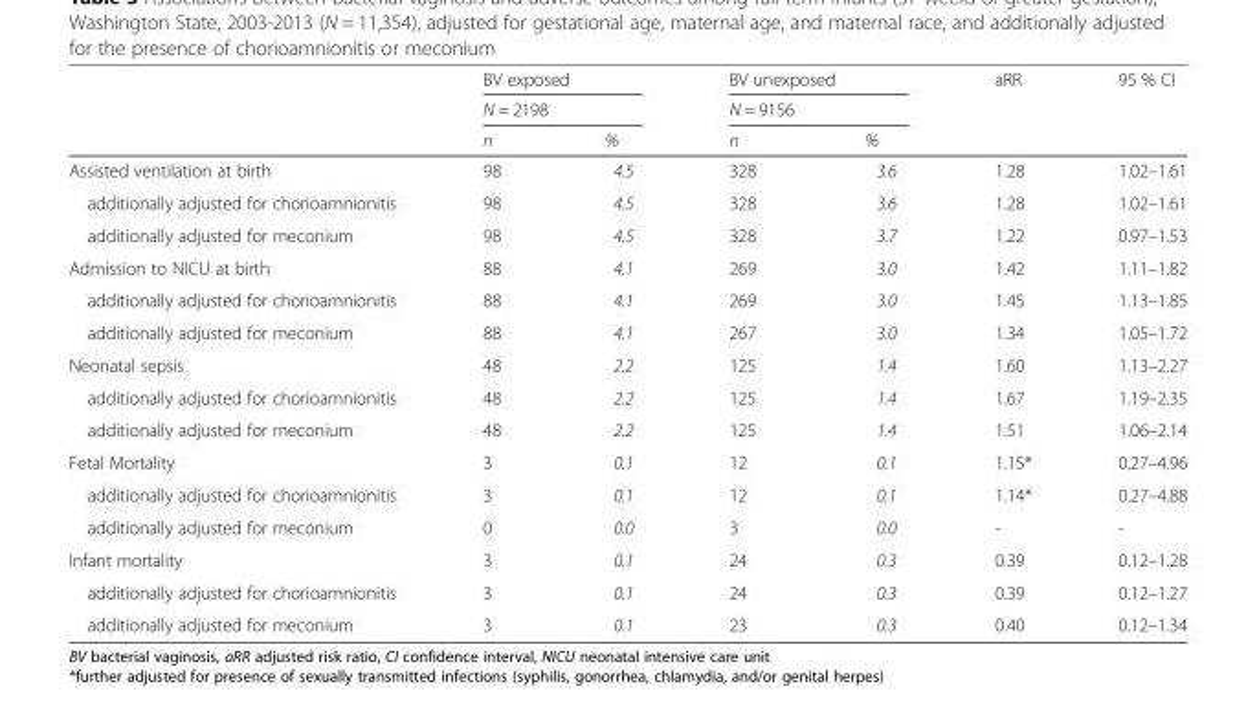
<table><thead><tr><td rowspan="3"></td><td rowspan="2" colspan="2">BV exposed N = 2198</td><td rowspan="2" colspan="2">BV unexposed N = 9156</td><td rowspan="3">aRR</td><td rowspan="3">95 % CI</td></tr><tr></tr><tr><td>n</td><td>%</td><td>n</td><td>%</td></tr></thead><tbody><tr><td>Assisted ventilation at birth</td><td>98</td><td>4.5</td><td>328</td><td>3.6</td><td>1.28</td><td>1.02–1.61</td></tr><tr><td>additionally adjusted for chorioamnionitis</td><td>98</td><td>4.5</td><td>328</td><td>3.6</td><td>1.28</td><td>1.02–1.61</td></tr><tr><td>additionally adjusted for meconium</td><td>98</td><td>4.5</td><td>328</td><td>3.7</td><td>1.22</td><td>0.97–1.53</td></tr><tr><td>Admission to NICU at birth</td><td>88</td><td>4.1</td><td>269</td><td>3.0</td><td>1.42</td><td>1.11–1.82</td></tr><tr><td>additionally adjusted for chorioamnionitis</td><td>88</td><td>4.1</td><td>269</td><td>3.0</td><td>1.45</td><td>1.13–1.85</td></tr><tr><td>additionally adjusted for meconium</td><td>88</td><td>4.1</td><td>267</td><td>3.0</td><td>1.34</td><td>1.05–1.72</td></tr><tr><td>Neonatal sepsis</td><td>48</td><td>2.2</td><td>125</td><td>1.4</td><td>1.60</td><td>1.13–2.27</td></tr><tr><td>additionally adjusted for chorioamnionitis</td><td>48</td><td>2.2</td><td>125</td><td>1.4</td><td>1.67</td><td>1.19–2.35</td></tr><tr><td>additionally adjusted for meconium</td><td>48</td><td>2.2</td><td>125</td><td>1.4</td><td>1.51</td><td>1.06–2.14</td></tr><tr><td>Fetal Mortality</td><td>3</td><td>0.1</td><td>12</td><td>0.1</td><td>1.15*</td><td>0.27–4.96</td></tr><tr><td>additionally adjusted for chorioamnionitis</td><td>3</td><td>0.1</td><td>12</td><td>0.1</td><td>1.14*</td><td>0.27–4.88</td></tr><tr><td>additionally adjusted for meconium</td><td>0</td><td>0.0</td><td>3</td><td>0.0</td><td>-</td><td>-</td></tr><tr><td>Infant mortality</td><td>3</td><td>0.1</td><td>24</td><td>0.3</td><td>0.39</td><td>0.12–1.28</td></tr><tr><td>additionally adjusted for chorioamnionitis</td><td>3</td><td>0.1</td><td>24</td><td>0.3</td><td>0.39</td><td>0.12–1.27</td></tr><tr><td>additionally adjusted for meconium</td><td>3</td><td>0.1</td><td>23</td><td>0.3</td><td>0.40</td><td>0.12–1.34</td></tr></tbody></table>